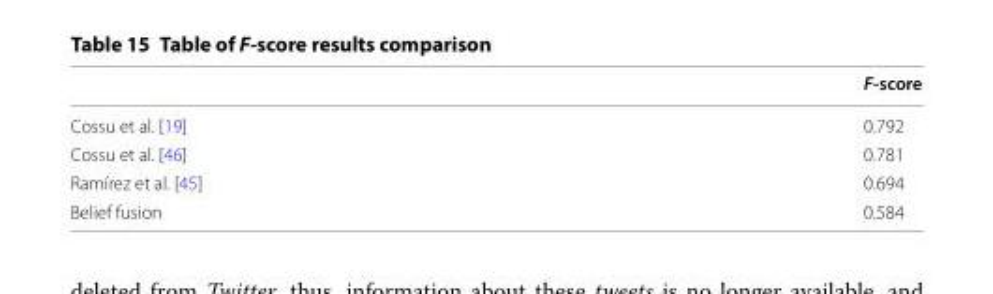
<table><thead><tr><td></td><td>F-score</td></tr></thead><tbody><tr><td>Cossu et al. [19]</td><td>0.792</td></tr><tr><td>Cossu et al. [46]</td><td>0.781</td></tr><tr><td>Ramírez et al. [45]</td><td>0.694</td></tr><tr><td>Belief fusion</td><td>0.584</td></tr></tbody></table>